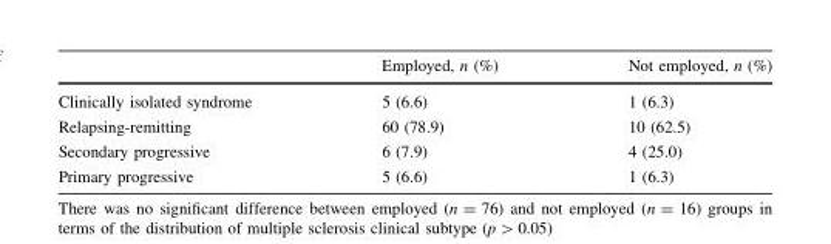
<table><thead><tr><td></td><td>Employed, n (%)</td><td>Not employed, n (%)</td></tr></thead><tbody><tr><td>Clinically isolated syndrome</td><td>5 (6.6)</td><td>1 (6.3)</td></tr><tr><td>Relapsing-remitting</td><td>60 (78.9)</td><td>10 (62.5)</td></tr><tr><td>Secondary progressive</td><td>6 (7.9)</td><td>4 (25.0)</td></tr><tr><td>Primary progressive</td><td>5 (6.6)</td><td>1 (6.3)</td></tr></tbody></table>